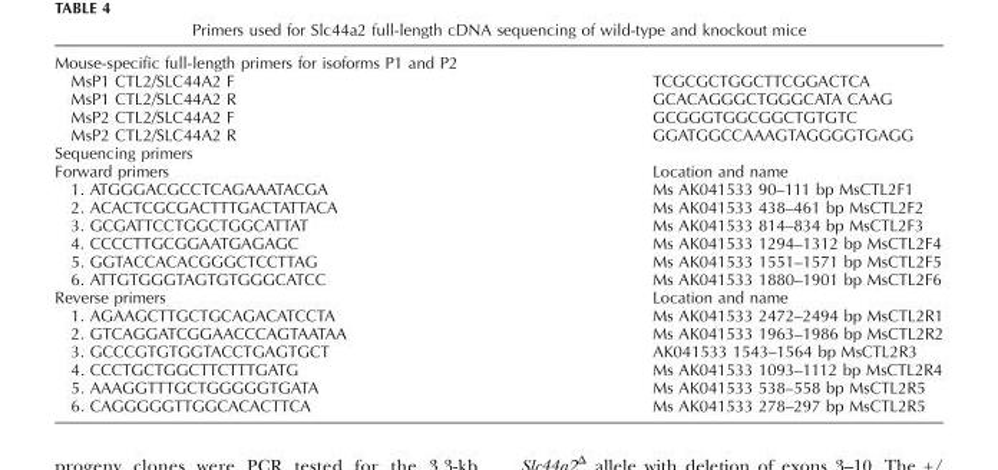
<table><tbody><tr><td colspan="2">Mouse-specific full-length primers for isoforms P1 and P2</td></tr><tr><td>MsP1 CTL2/SLC44A2 F</td><td>TCGCGCTGGCTTCGGACTCA</td></tr><tr><td>MsP1 CTL2/SLC44A2 R</td><td>GCACAGGGCTGGGCATA CAAG</td></tr><tr><td>MsP2 CTL2/SLC44A2 F</td><td>GCGGGTGGCGGCTGTGTC</td></tr><tr><td>MsP2 CTL2/SLC44A2 R</td><td>GGATGGCCAAAGTAGGGGTGAGG</td></tr><tr><td colspan="2">Sequencing primers</td></tr><tr><td>Forward primers</td><td>Location and name</td></tr><tr><td>1. ATGGGACGCCTCAGAAATACGA</td><td>Ms AK041533 90–111 bp MsCTL2F1</td></tr><tr><td>2. ACACTCGCGACTTTGACTATTACA</td><td>Ms AK041533 438–461 bp MsCTL2F2</td></tr><tr><td>3. GCGATTCCTGGCTGGCATTAT</td><td>Ms AK041533 814–834 bp MsCTL2F3</td></tr><tr><td>4. CCCCTTGCGGAATGAGAGC</td><td>Ms AK041533 1294–1312 bp MsCTL2F4</td></tr><tr><td>5. GGTACCACACGGGCTCCTTAG</td><td>Ms AK041533 1551–1571 bp MsCTL2F5</td></tr><tr><td>6. ATTGTGGGTAGTGTGGGCATCC</td><td>Ms AK041533 1880–1901 bp MsCTL2F6</td></tr><tr><td>Reverse primers</td><td>Location and name</td></tr><tr><td>1. AGAAGCTTGCTGCAGACATCCTA</td><td>Ms AK041533 2472–2494 bp MsCTL2R1</td></tr><tr><td>2. GTCAGGATCGGAACCCAGTAATAA</td><td>Ms AK041533 1963–1986 bp MsCTL2R2</td></tr><tr><td>3. GCCCGTGTGGTACCTGAGTGCT</td><td>AK041533 1543–1564 bp MsCTL2R3</td></tr><tr><td>4. CCCTGCTGGCTTCTTTGATG</td><td>Ms AK041533 1093–1112 bp MsCTL2R4</td></tr><tr><td>5. AAAGGTTTGCTGGGGGTGATA</td><td>Ms AK041533 538–558 bp MsCTL2R5</td></tr><tr><td>6. CAGGGGGTTGGCACACTTCA</td><td>Ms AK041533 278–297 bp MsCTL2R5</td></tr></tbody></table>